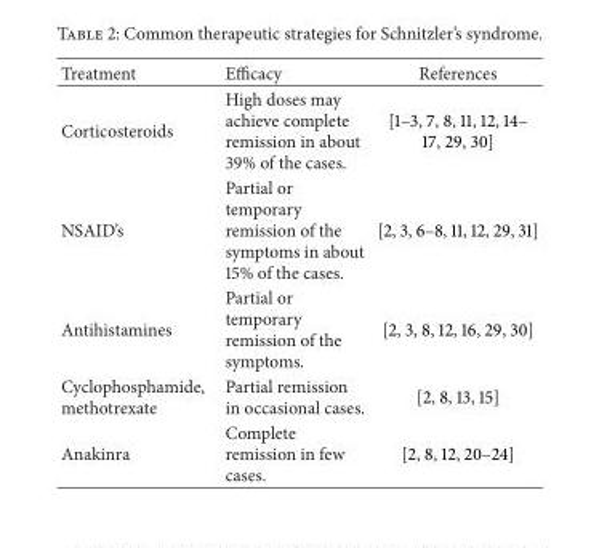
<table><thead><tr><td>Treatment</td><td>Efficacy</td><td>References</td></tr></thead><tbody><tr><td>Corticosteroids</td><td>High doses may achieve complete remission in about 39% of the cases.</td><td>[1–3, 7, 8, 11, 12, 14– 17, 29, 30]</td></tr><tr><td>NSAID’s</td><td>Partial or temporary remission of the symptoms in about 15% of the cases.</td><td>[2, 3, 6–8, 11, 12, 29, 31]</td></tr><tr><td>Antihistamines</td><td>Partial or temporary remission of the symptoms.</td><td>[2, 3, 8, 12, 16, 29, 30]</td></tr><tr><td>Cyclophosphamide, methotrexate</td><td>Partial remission in occasional cases.</td><td>[2, 8, 13, 15]</td></tr><tr><td>Anakinra</td><td>Complete remission in few cases.</td><td>[2, 8, 12, 20–24]</td></tr></tbody></table>